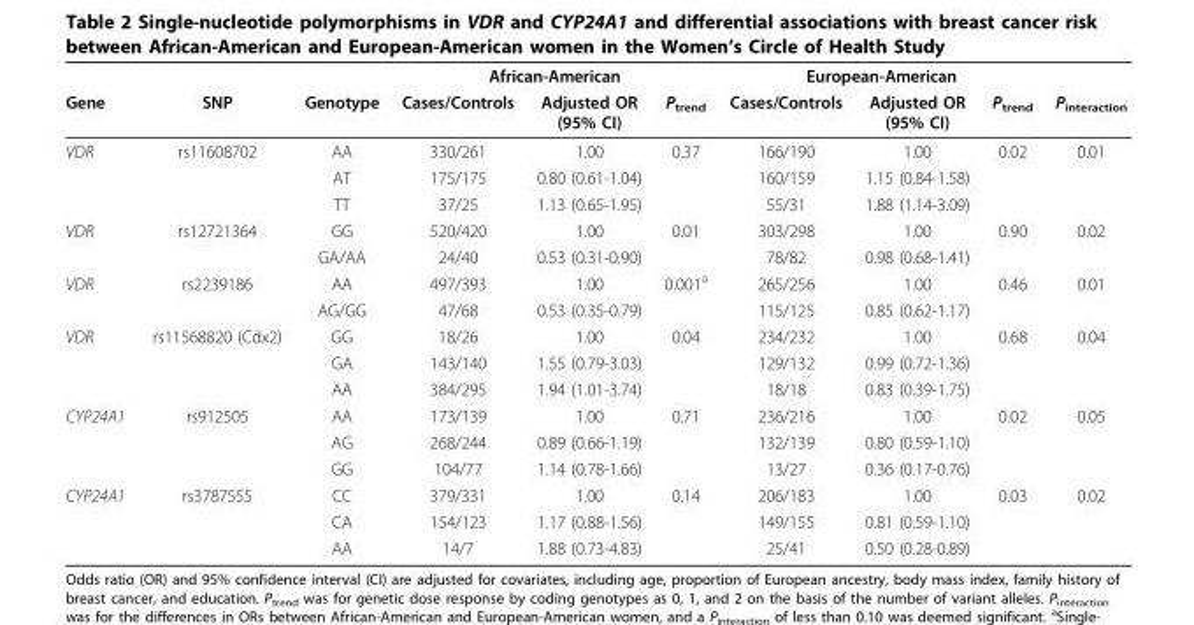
<table><thead><tr><td rowspan="2">Gene</td><td rowspan="2">SNP</td><td rowspan="2">Genotype</td><td colspan="3">African-American</td><td colspan="3">European-American</td><td rowspan="2">P<sub>interaction</sub></td></tr><tr><td>Cases/Controls</td><td>Adjusted OR (95% CI)</td><td>P<sub>trend</sub></td><td>Cases/Controls</td><td>Adjusted OR (95% CI)</td><td>P<sub>trend</sub></td></tr></thead><tbody><tr><td rowspan="3">VDR</td><td>rs11608702</td><td>AA</td><td>330/261</td><td>1.00</td><td>0.37</td><td>166/190</td><td>1.00</td><td>0.02</td><td>0.01</td></tr><tr><td></td><td>AT</td><td>175/175</td><td>0.80 (0.61-1.04)</td><td></td><td>160/159</td><td>1.15 (0.84-1.58)</td><td></td><td></td></tr><tr><td></td><td>TT</td><td>37/25</td><td>1.13 (0.65-1.95)</td><td></td><td>55/31</td><td>1.88 (1.14-3.09)</td><td></td><td></td></tr><tr><td rowspan="2">VDR</td><td>rs12721364</td><td>GG</td><td>520/420</td><td>1.00</td><td>0.01</td><td>303/298</td><td>1.00</td><td>0.90</td><td>0.02</td></tr><tr><td></td><td>GA/AA</td><td>24/40</td><td>0.53 (0.31-0.90)</td><td></td><td>78/82</td><td>0.98 (0.68-1.41)</td><td></td><td></td></tr><tr><td rowspan="2">VDR</td><td>rs2239186</td><td>AA</td><td>497/393</td><td>1.00</td><td>0.001<sup>a</sup></td><td>265/256</td><td>1.00</td><td>0.46</td><td>0.01</td></tr><tr><td></td><td>AG/GG</td><td>47/68</td><td>0.53 (0.35-0.79)</td><td></td><td>115/125</td><td>0.85 (0.62-1.17)</td><td></td><td></td></tr><tr><td rowspan="3">VDR</td><td>rs11568820 (Cdx2)</td><td>GG</td><td>18/26</td><td>1.00</td><td>0.04</td><td>234/232</td><td>1.00</td><td>0.68</td><td>0.04</td></tr><tr><td></td><td>GA</td><td>143/140</td><td>1.55 (0.79-3.03)</td><td></td><td>129/132</td><td>0.99 (0.72-1.36)</td><td></td><td></td></tr><tr><td></td><td>AA</td><td>384/295</td><td>1.94 (1.01-3.74)</td><td></td><td>18/18</td><td>0.83 (0.39-1.75)</td><td></td><td></td></tr><tr><td rowspan="3">CYP24A1</td><td>rs912505</td><td>AA</td><td>173/139</td><td>1.00</td><td>0.71</td><td>236/216</td><td>1.00</td><td>0.02</td><td>0.05</td></tr><tr><td></td><td>AG</td><td>268/244</td><td>0.89 (0.66-1.19)</td><td></td><td>132/139</td><td>0.80 (0.59-1.10)</td><td></td><td></td></tr><tr><td></td><td>GG</td><td>104/77</td><td>1.14 (0.78-1.66)</td><td></td><td>13/27</td><td>0.36 (0.17-0.76)</td><td></td><td></td></tr><tr><td rowspan="3">CYP24A1</td><td>rs3787555</td><td>CC</td><td>379/331</td><td>1.00</td><td>0.14</td><td>206/183</td><td>1.00</td><td>0.03</td><td>0.02</td></tr><tr><td></td><td>CA</td><td>154/123</td><td>1.17 (0.88-1.56)</td><td></td><td>149/155</td><td>0.81 (0.59-1.10)</td><td></td><td></td></tr><tr><td></td><td>AA</td><td>14/7</td><td>1.88 (0.73-4.83)</td><td></td><td>25/41</td><td>0.50 (0.28-0.89)</td><td></td><td></td></tr></tbody></table>